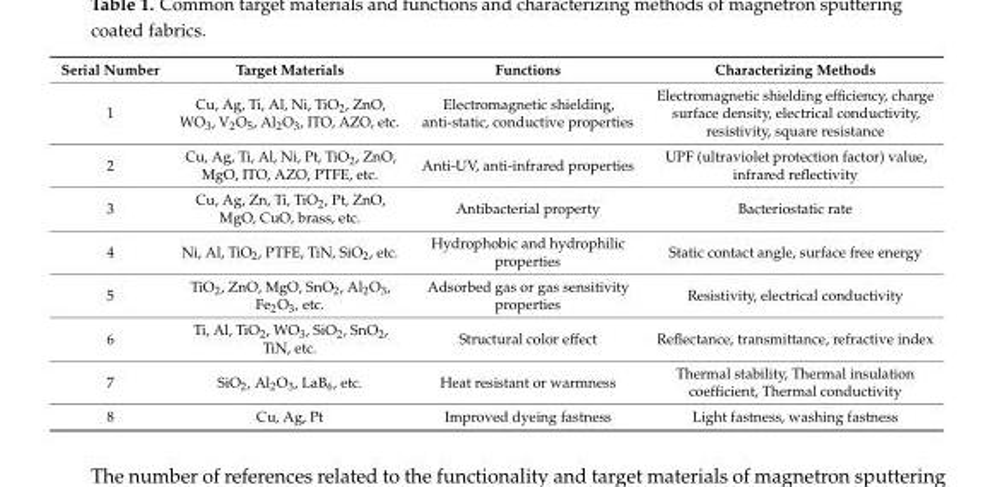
<table><thead><tr><td>Serial Number</td><td>Target Materials</td><td>Functions</td><td>Characterizing Methods</td></tr></thead><tbody><tr><td>1</td><td>Cu, Ag, Ti, Al, Ni, TiO<sub>2</sub>, ZnO, WO<sub>3</sub>, V<sub>2</sub>O<sub>5</sub>, Al<sub>2</sub>O<sub>3</sub>, ITO, AZO, etc.</td><td>Electromagnetic shielding, anti-static, conductive properties</td><td>Electromagnetic shielding efficiency, charge surface density, electrical conductivity, resistivity, square resistance</td></tr><tr><td>2</td><td>Cu, Ag, Ti, Al, Ni, Pt, TiO<sub>2</sub>, ZnO, MgO, ITO, AZO, PTFE, etc.</td><td>Anti-UV, anti-infrared properties</td><td>UPF (ultraviolet protection factor) value, infrared reflectivity</td></tr><tr><td>3</td><td>Cu, Ag, Zn, Ti, TiO<sub>2</sub>, Pt, ZnO, MgO, CuO, brass, etc.</td><td>Antibacterial property</td><td>Bacteriostatic rate</td></tr><tr><td>4</td><td>Ni, Al, TiO<sub>2</sub>, PTFE, TiN, SiO<sub>2</sub>, etc.</td><td>Hydrophobic and hydrophilic properties</td><td>Static contact angle, surface free energy</td></tr><tr><td>5</td><td>TiO<sub>2</sub>, ZnO, MgO, SnO<sub>2</sub>, Al<sub>2</sub>O<sub>3</sub>, Fe<sub>2</sub>O<sub>3</sub>, etc.</td><td>Adsorbed gas or gas sensitivity properties</td><td>Resistivity, electrical conductivity</td></tr><tr><td>6</td><td>Ti, Al, TiO<sub>2</sub>, WO<sub>3</sub>, SiO<sub>2</sub>, SnO<sub>2</sub>, TiN, etc.</td><td>Structural color effect</td><td>Reflectance, transmittance, refractive index</td></tr><tr><td>7</td><td>SiO<sub>2</sub>, Al<sub>2</sub>O<sub>3</sub>, LaB<sub>6</sub>, etc.</td><td>Heat resistant or warmness</td><td>Thermal stability, Thermal insulation coefficient, Thermal conductivity</td></tr><tr><td>8</td><td>Cu, Ag, Pt</td><td>Improved dyeing fastness</td><td>Light fastness, washing fastness</td></tr></tbody></table>